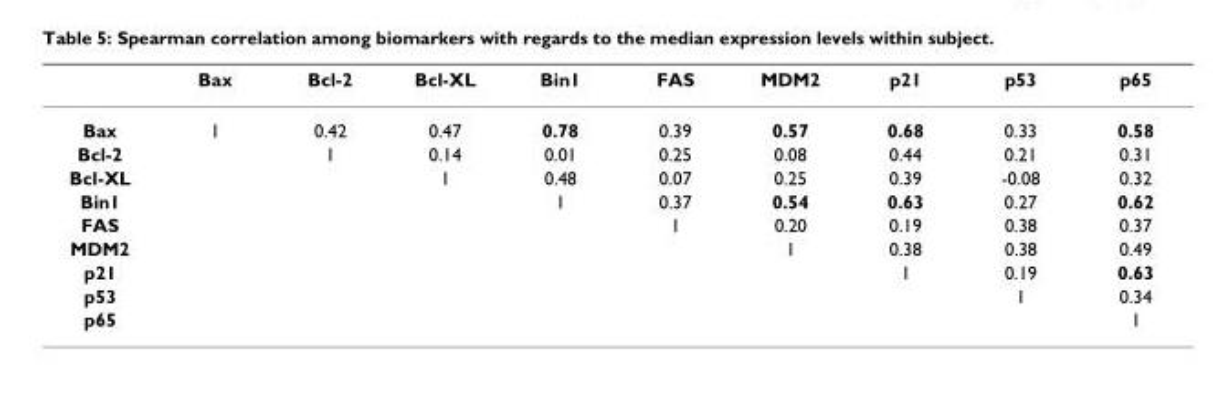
<table><thead><tr><td></td><td>Bax</td><td>Bcl-2</td><td>Bcl-XL</td><td>Bin1</td><td>FAS</td><td>MDM2</td><td>p21</td><td>p53</td><td>p65</td></tr></thead><tbody><tr><td>Bax</td><td>1</td><td>0.42</td><td>0.47</td><td>0.78</td><td>0.39</td><td>0.57</td><td>0.68</td><td>0.33</td><td>0.58</td></tr><tr><td>Bcl-2</td><td></td><td>1</td><td>0.14</td><td>0.01</td><td>0.25</td><td>0.08</td><td>0.44</td><td>0.21</td><td>0.31</td></tr><tr><td>Bcl-XL</td><td></td><td></td><td>1</td><td>0.48</td><td>0.07</td><td>0.25</td><td>0.39</td><td>-0.08</td><td>0.32</td></tr><tr><td>Bin1</td><td></td><td></td><td></td><td>1</td><td>0.37</td><td>0.54</td><td>0.63</td><td>0.27</td><td>0.62</td></tr><tr><td>FAS</td><td></td><td></td><td></td><td></td><td>1</td><td>0.20</td><td>0.19</td><td>0.38</td><td>0.37</td></tr><tr><td>MDM2</td><td></td><td></td><td></td><td></td><td></td><td>1</td><td>0.38</td><td>0.38</td><td>0.49</td></tr><tr><td>p21</td><td></td><td></td><td></td><td></td><td></td><td></td><td>1</td><td>0.19</td><td>0.63</td></tr><tr><td>p53</td><td></td><td></td><td></td><td></td><td></td><td></td><td></td><td>1</td><td>0.34</td></tr><tr><td>p65</td><td></td><td></td><td></td><td></td><td></td><td></td><td></td><td></td><td>1</td></tr></tbody></table>